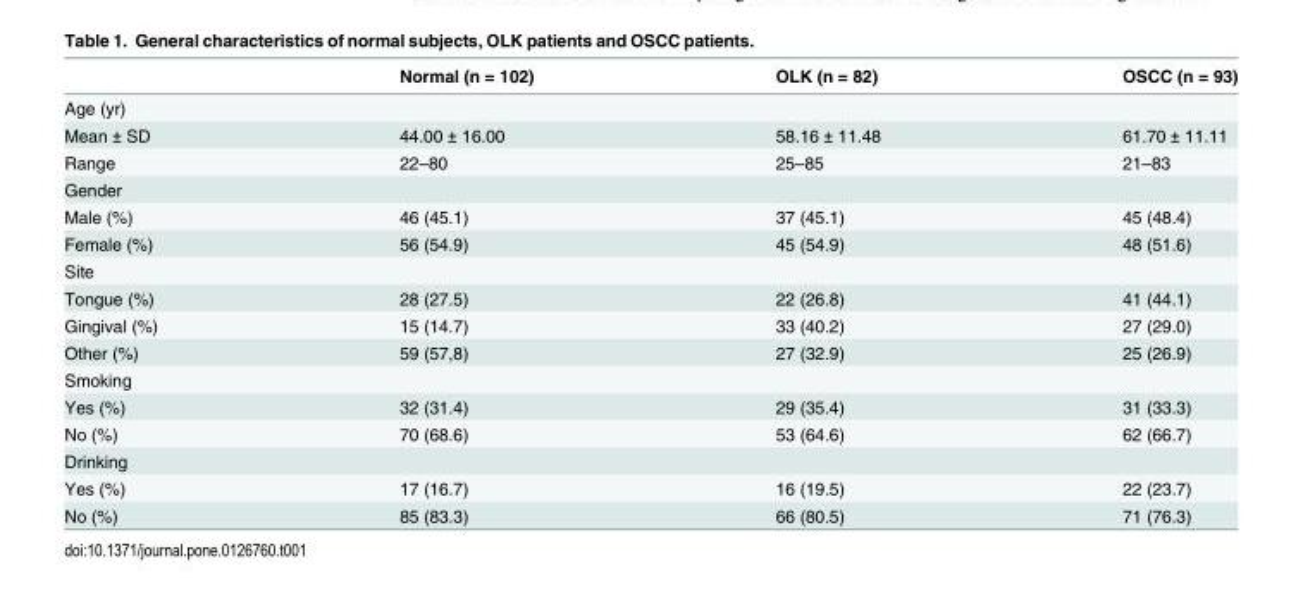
<table><thead><tr><td></td><td>Normal (n = 102)</td><td>OLK (n = 82)</td><td>OSCC (n = 93)</td></tr></thead><tbody><tr><td colspan="4">Age (yr)</td></tr><tr><td>Mean ± SD</td><td>44.00 ± 16.00</td><td>58.16 ± 11.48</td><td>61.70 ± 11.11</td></tr><tr><td>Range</td><td>22–80</td><td>25–85</td><td>21–83</td></tr><tr><td colspan="4">Gender</td></tr><tr><td>Male (%)</td><td>46 (45.1)</td><td>37 (45.1)</td><td>45 (48.4)</td></tr><tr><td>Female (%)</td><td>56 (54.9)</td><td>45 (54.9)</td><td>48 (51.6)</td></tr><tr><td colspan="4">Site</td></tr><tr><td>Tongue (%)</td><td>28 (27.5)</td><td>22 (26.8)</td><td>41 (44.1)</td></tr><tr><td>Gingival (%)</td><td>15 (14.7)</td><td>33 (40.2)</td><td>27 (29.0)</td></tr><tr><td>Other (%)</td><td>59 (57,8)</td><td>27 (32.9)</td><td>25 (26.9)</td></tr><tr><td colspan="4">Smoking</td></tr><tr><td>Yes (%)</td><td>32 (31.4)</td><td>29 (35.4)</td><td>31 (33.3)</td></tr><tr><td>No (%)</td><td>70 (68.6)</td><td>53 (64.6)</td><td>62 (66.7)</td></tr><tr><td colspan="4">Drinking</td></tr><tr><td>Yes (%)</td><td>17 (16.7)</td><td>16 (19.5)</td><td>22 (23.7)</td></tr><tr><td>No (%)</td><td>85 (83.3)</td><td>66 (80.5)</td><td>71 (76.3)</td></tr></tbody></table>